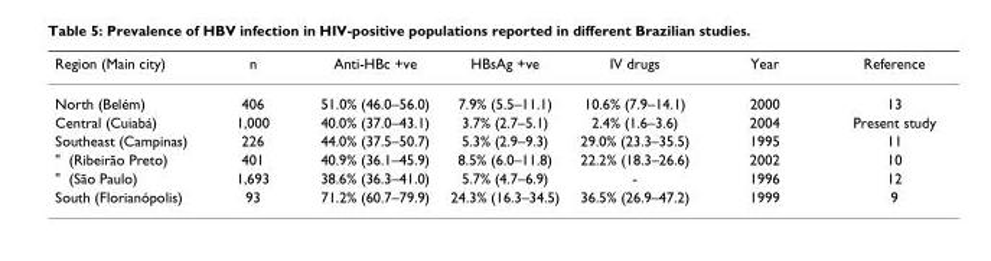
<table><thead><tr><td>Region (Main city)</td><td>n</td><td>Anti-HBc +ve</td><td>HBsAg +ve</td><td>IV drugs</td><td>Year</td><td>Reference</td></tr></thead><tbody><tr><td>North (Belém)</td><td>406</td><td>51.0% (46.0–56.0)</td><td>7.9% (5.5–11.1)</td><td>10.6% (7.9–14.1)</td><td>2000</td><td>13</td></tr><tr><td>Central (Cuiabá)</td><td>1,000</td><td>40.0% (37.0–43.1)</td><td>3.7% (2.7–5.1)</td><td>2.4% (1.6–3.6)</td><td>2004</td><td>Present study</td></tr><tr><td>Southeast (Campinas)</td><td>226</td><td>44.0% (37.5–50.7)</td><td>5.3% (2.9–9.3)</td><td>29.0% (23.3–35.5)</td><td>1995</td><td>11</td></tr><tr><td>&quot; (Ribeirão Preto)</td><td>401</td><td>40.9% (36.1–45.9)</td><td>8.5% (6.0–11.8)</td><td>22.2% (18.3–26.6)</td><td>2002</td><td>10</td></tr><tr><td>&quot; (São Paulo)</td><td>1,693</td><td>38.6% (36.3–41.0)</td><td>5.7% (4.7–6.9)</td><td>-</td><td>1996</td><td>12</td></tr><tr><td>South (Florianópolis)</td><td>93</td><td>71.2% (60.7–79.9)</td><td>24.3% (16.3–34.5)</td><td>36.5% (26.9–47.2)</td><td>1999</td><td>9</td></tr></tbody></table>